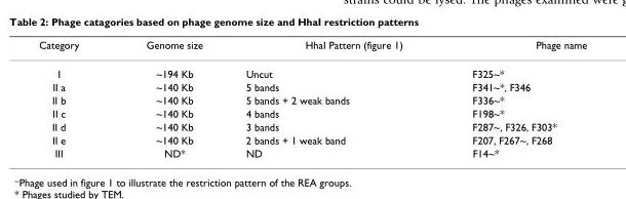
<table><thead><tr><td>Category</td><td>Genome size</td><td>HhaI Pattern (figure 1)</td><td>Phage name</td></tr></thead><tbody><tr><td>I</td><td>~194 Kb</td><td>Uncut</td><td>F325~*</td></tr><tr><td>II a</td><td>~140 Kb</td><td>5 bands</td><td>F341~*, F346</td></tr><tr><td>II b</td><td>~140 Kb</td><td>5 bands + 2 weak bands</td><td>F336~*</td></tr><tr><td>II c</td><td>~140 Kb</td><td>4 bands</td><td>F198~*</td></tr><tr><td>II d</td><td>~140 Kb</td><td>3 bands</td><td>F287~, F326, F303*</td></tr><tr><td>II e</td><td>~140 Kb</td><td>2 bands + 1 weak band</td><td>F207, F267~, F268</td></tr><tr><td>III</td><td>ND*</td><td>ND</td><td>F14~*</td></tr></tbody></table>